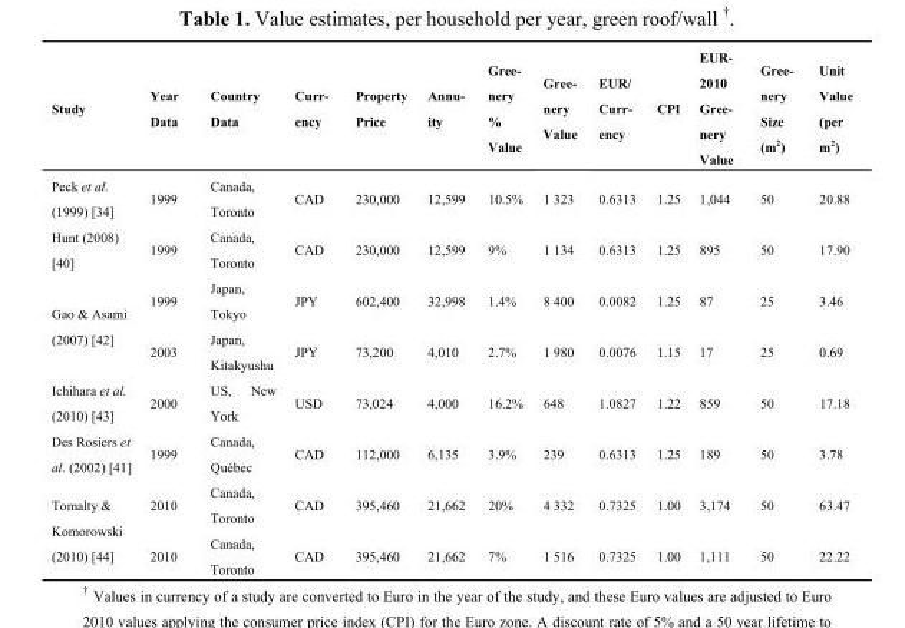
<table><thead><tr><td>Study</td><td>Year Data</td><td>Country Data</td><td>Curr- ency</td><td>Property Price</td><td>Annu- ity</td><td>Gree- nery % Value</td><td>Gree- nery Value</td><td>EUR/ Curr- ency</td><td>CPI</td><td>EUR- 2010 Gree- nery Value</td><td>Gree- nery Size (m<sup>2</sup>)</td><td>Unit Value (per m<sup>2</sup>)</td></tr></thead><tbody><tr><td>Peck et al. (1999) [34]</td><td>1999</td><td>Canada, Toronto</td><td>CAD</td><td>230,000</td><td>12,599</td><td>10.5%</td><td>1 323</td><td>0.6313</td><td>1.25</td><td>1,044</td><td>50</td><td>20.88</td></tr><tr><td>Hunt (2008) [40]</td><td>1999</td><td>Canada, Toronto</td><td>CAD</td><td>230,000</td><td>12,599</td><td>9%</td><td>1 134</td><td>0.6313</td><td>1.25</td><td>895</td><td>50</td><td>17.90</td></tr><tr><td rowspan="2">Gao &amp; Asami (2007) [42]</td><td>1999</td><td>Japan, Tokyo</td><td>JPY</td><td>602,400</td><td>32,998</td><td>1.4%</td><td>8 400</td><td>0.0082</td><td>1.25</td><td>87</td><td>25</td><td>3.46</td></tr><tr><td>2003</td><td>Japan, Kitakyushu</td><td>JPY</td><td>73,200</td><td>4,010</td><td>2.7%</td><td>1 980</td><td>0.0076</td><td>1.15</td><td>17</td><td>25</td><td>0.69</td></tr><tr><td>Ichihara et al. (2010) [43]</td><td>2000</td><td>US, New York</td><td>USD</td><td>73,024</td><td>4,000</td><td>16.2%</td><td>648</td><td>1.0827</td><td>1.22</td><td>859</td><td>50</td><td>17.18</td></tr><tr><td>Des Rosiers et al. (2002) [41]</td><td>1999</td><td>Canada, Québec</td><td>CAD</td><td>112,000</td><td>6,135</td><td>3.9%</td><td>239</td><td>0.6313</td><td>1.25</td><td>189</td><td>50</td><td>3.78</td></tr><tr><td rowspan="2">Tomalty &amp; Komorowski (2010) [44]</td><td>2010</td><td>Canada, Toronto</td><td>CAD</td><td>395,460</td><td>21,662</td><td>20%</td><td>4 332</td><td>0.7325</td><td>1.00</td><td>3,174</td><td>50</td><td>63.47</td></tr><tr><td>2010</td><td>Canada, Toronto</td><td>CAD</td><td>395,460</td><td>21,662</td><td>7%</td><td>1 516</td><td>0.7325</td><td>1.00</td><td>1,111</td><td>50</td><td>22.22</td></tr></tbody></table>